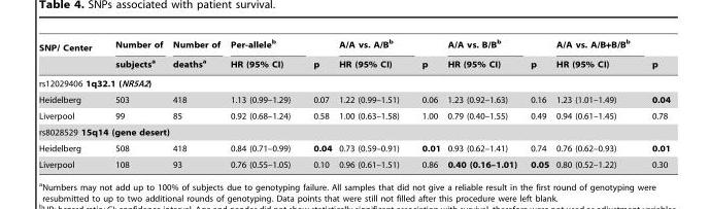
<table><thead><tr><td rowspan="2">SNP/ Center</td><td rowspan="2">Number of subjects<sup>a</sup></td><td rowspan="2">Number of deaths<sup>a</sup></td><td rowspan="2">Per-allele<sup>b</sup> HR (95% CI)</td><td rowspan="2">p</td><td rowspan="2">A/A vs. A/B<sup>b</sup> HR (95% CI)</td><td rowspan="2">p</td><td rowspan="2">A/A vs. B/B<sup>b</sup> HR (95% CI)</td><td rowspan="2">p</td><td rowspan="2">A/A vs. A/B+B/B<sup>b</sup> HR (95% CI)</td><td rowspan="2">p</td></tr><tr></tr></thead><tbody><tr><td colspan="11">rs12029406 1q32.1 (NR5A2)</td></tr><tr><td>Heidelberg</td><td>503</td><td>418</td><td>1.13 (0.99–1.29)</td><td>0.07</td><td>1.22 (0.99–1.51)</td><td>0.06</td><td>1.23 (0.92–1.63)</td><td>0.16</td><td>1.23 (1.01–1.49)</td><td>0.04</td></tr><tr><td>Liverpool</td><td>99</td><td>85</td><td>0.92 (0.68–1.24)</td><td>0.58</td><td>1.00 (0.63–1.58)</td><td>1.00</td><td>0.79 (0.40–1.55)</td><td>0.49</td><td>0.94 (0.61–1.45)</td><td>0.78</td></tr><tr><td colspan="11">rs8028529 15q14 (gene desert)</td></tr><tr><td>Heidelberg</td><td>508</td><td>418</td><td>0.84 (0.71–0.99)</td><td>0.04</td><td>0.73 (0.59–0.91)</td><td>0.01</td><td>0.93 (0.62–1.41)</td><td>0.74</td><td>0.76 (0.62–0.93)</td><td>0.01</td></tr><tr><td>Liverpool</td><td>108</td><td>93</td><td>0.76 (0.55–1.05)</td><td>0.10</td><td>0.96 (0.61–1.51)</td><td>0.86</td><td>0.40 (0.16–1.01)</td><td>0.05</td><td>0.80 (0.52–1.22)</td><td>0.30</td></tr></tbody></table>